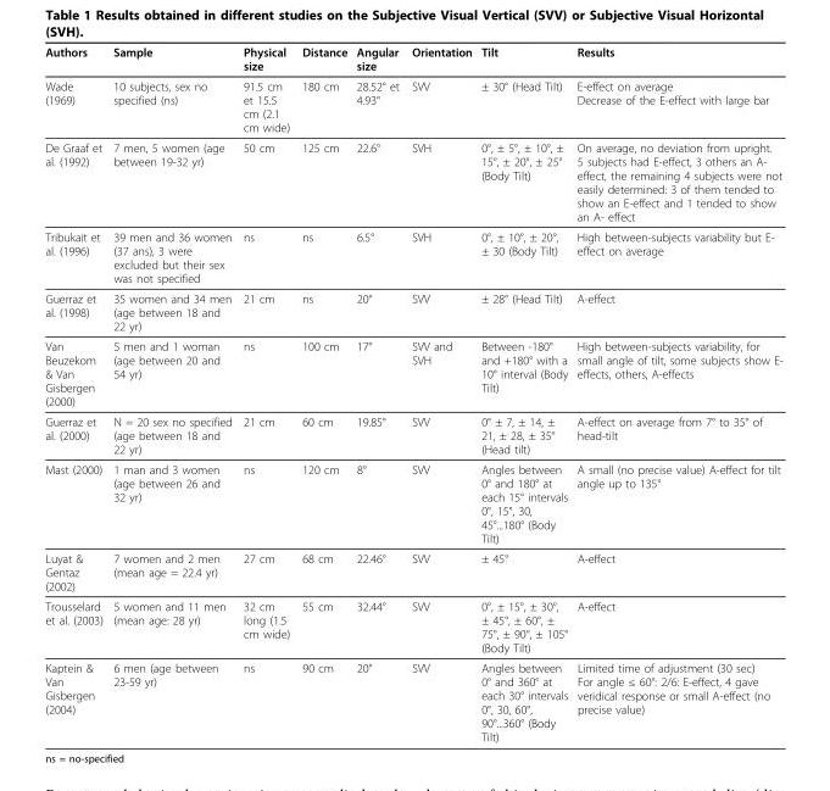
<table><thead><tr><td>Authors</td><td>Sample</td><td>Physical size</td><td>Distance</td><td>Angular size</td><td>Orientation</td><td>Tilt</td><td>Results</td></tr></thead><tbody><tr><td>Wade (1969)</td><td>10 subjects, sex no specified (ns)</td><td>91.5 cm et 15.5 cm (2.1 cm wide)</td><td>180 cm</td><td>28.52° et 4.93°</td><td>SVV</td><td>± 30° (Head Tilt)</td><td>E-effect on average Decrease of the E-effect with large bar</td></tr><tr><td>De Graaf et al. (1992)</td><td>7 men, 5 women (age between 19-32 yr)</td><td>50 cm</td><td>125 cm</td><td>22.6°</td><td>SVH</td><td>0°, ± 5°, ± 10°, ± 15°, ± 20°, ± 25° (Body Tilt)</td><td>On average, no deviation from upright. 5 subjects had E-effect, 3 others an A- effect, the remaining 4 subjects were not easily determined: 3 of them tended to show an E-effect and 1 tended to show an A- effect</td></tr><tr><td>Tribukait et al. (1996)</td><td>39 men and 36 women (37 ans), 3 were excluded but their sex was not specified</td><td>ns</td><td>ns</td><td>6.5°</td><td>SVH</td><td>0°, ± 10°, ± 20°, ± 30 (Body Tilt)</td><td>High between-subjects variability but E- effect on average</td></tr><tr><td>Guerraz et al. (1998)</td><td>35 women and 34 men (age between 18 and 22 yr)</td><td>21 cm</td><td>ns</td><td>20°</td><td>SVV</td><td>± 28° (Head Tilt)</td><td>A-effect</td></tr><tr><td>Van Beuzekom &amp; Van Gisbergen (2000)</td><td>5 men and 1 woman (age between 20 and 54 yr)</td><td>ns</td><td>100 cm</td><td>17°</td><td>SVV and SVH</td><td>Between -180° and +180° with a 10° interval (Body Tilt)</td><td>High between-subjects variability, for small angle of tilt, some subjects show E- effects, others, A-effects</td></tr><tr><td>Guerraz et al. (2000)</td><td>N = 20 sex no specified (age between 18 and 22 yr)</td><td>21 cm</td><td>60 cm</td><td>19.85°</td><td>SVV</td><td>0° ± 7, ± 14, ± 21, ± 28, ± 35° (Head tilt)</td><td>A-effect on average from 7° to 35° of head-tilt</td></tr><tr><td>Mast (2000)</td><td>1 man and 3 women (age between 26 and 32 yr)</td><td>ns</td><td>120 cm</td><td>8°</td><td>SVV</td><td>Angles between 0° and 180° at each 15° intervals 0°, 15°, 30, 45°...180° (Body Tilt)</td><td>A small (no precise value) A-effect for tilt angle up to 135°</td></tr><tr><td>Luyat &amp; Gentaz (2002)</td><td>7 women and 2 men (mean age = 22.4 yr)</td><td>27 cm</td><td>68 cm</td><td>22.46°</td><td>SVV</td><td>± 45°</td><td>A-effect</td></tr><tr><td>Trousselard et al. (2003)</td><td>5 women and 11 men (mean age: 28 yr)</td><td>32 cm long (1.5 cm wide)</td><td>55 cm</td><td>32.44°</td><td>SVV</td><td>0°, ± 15°, ± 30°, ± 45°, ± 60°, ± 75°, ± 90°, ± 105° (Body Tilt)</td><td>A-effect</td></tr><tr><td>Kaptein &amp; Van Gisbergen (2004)</td><td>6 men (age between 23-59 yr)</td><td>ns</td><td>90 cm</td><td>20°</td><td>SVV</td><td>Angles between 0° and 360° at each 30° intervals 0°, 30, 60°, 90°...360° (Body Tilt)</td><td>Limited time of adjustment (30 sec) For angle ≤ 60°: 2/6: E-effect, 4 gave veridical response or small A-effect (no precise value)</td></tr></tbody></table>